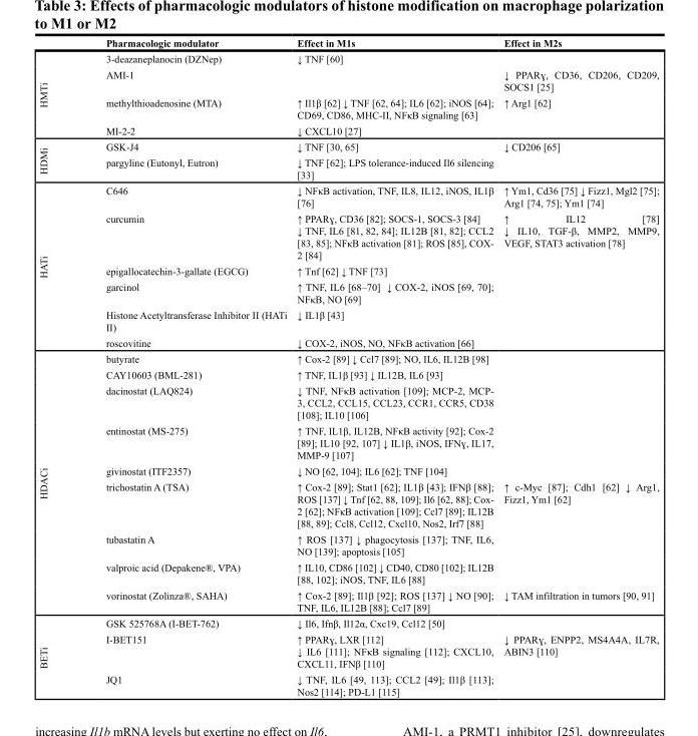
<table><thead><tr><td></td><td>Pharmacologic modulator</td><td>Effect in M1s</td><td>Effect in M2s</td></tr></thead><tbody><tr><td rowspan="4">HMTi</td><td>3-deazaneplanocin (DZNep)</td><td>↓ TNF [60]</td><td></td></tr><tr><td>AMI-1</td><td></td><td>↓ PPARɣ, CD36, CD206, CD209, SOCS1 [25]</td></tr><tr><td>methylthioadenosine (MTA)</td><td>↑ Il1β [62] ↓ TNF [62, 64]; IL6 [62]; iNOS [64]; CD69, CD86, MHC-II, NFκB signaling [63]</td><td>↑ Arg1 [62]</td></tr><tr><td>MI-2-2</td><td>↓ CXCL10 [27]</td><td></td></tr><tr><td rowspan="2">HDMi</td><td>GSK-J4</td><td>↓ TNF [30, 65]</td><td>↓ CD206 [65]</td></tr><tr><td>pargyline (Eutonyl, Eutron)</td><td>↓ TNF [62]; LPS tolerance-induced Il6 silencing [33]</td><td></td></tr><tr><td rowspan="6">HATi</td><td>C646</td><td>↓ NFκB activation, TNF, IL8, IL12, iNOS, IL1β [76]</td><td>↑ Ym1, Cd36 [75] ↓ Fizz1, Mgl2 [75]; Arg1 [74, 75]; Ym1 [74]</td></tr><tr><td>curcumin</td><td>↑ PPARɣ, CD36 [82]; SOCS-1, SOCS-3 [84] ↓ TNF, IL6 [81, 82, 84]; IL12B [81, 82]; CCL2 [83, 85]; NFκB activation [81]; ROS [85], COX- 2 [84]</td><td>↑ IL12 [78] ↓ IL10, TGF-β, MMP2, MMP9, VEGF, STAT3 activation [78]</td></tr><tr><td>epigallocatechin-3-gallate (EGCG)</td><td>↑ Tnf [62] ↓ TNF [73]</td><td></td></tr><tr><td>garcinol</td><td>↑ TNF, IL6 [68–70] ↓ COX-2, iNOS [69, 70]; NFκB, NO [69]</td><td></td></tr><tr><td>Histone Acetyltransferase Inhibitor II (HATi II)</td><td>↓ IL1β [43]</td><td></td></tr><tr><td>roscovitine</td><td>↓ COX-2, iNOS, NO, NFκB activation [66]</td><td></td></tr><tr><td rowspan="9">HDACi</td><td>butyrate</td><td>↑ Cox-2 [89] ↓ Ccl7 [89]; NO, IL6, IL12B [98]</td><td></td></tr><tr><td>CAY10603 (BML-281)</td><td>↑ TNF, IL1β [93] ↓ IL12B, IL6 [93]</td><td></td></tr><tr><td>dacinostat (LAQ824)</td><td>↓ TNF, NFκB activation [109]; MCP-2, MCP- 3, CCL2, CCL15, CCL23, CCR1, CCR5, CD38 [108]; IL10 [106]</td><td></td></tr><tr><td>entinostat (MS-275)</td><td>↑ TNF, IL1β, IL12B, NFκB activity [92]; Cox-2 [89]; IL10 [92, 107] ↓ IL1β, iNOS, IFNɣ, IL17, MMP-9 [107]</td><td></td></tr><tr><td>givinostat (ITF2357)</td><td>↓ NO [62, 104]; IL6 [62]; TNF [104]</td><td></td></tr><tr><td>trichostatin A (TSA)</td><td>↑ Cox-2 [89]; Stat1 [62]; IL1β [43]; IFNβ [88]; ROS [137] ↓ Tnf [62, 88, 109]; Il6 [62, 88]; Cox- 2 [62]; NFκB activation [109]; Ccl7 [89]; IL12B [88, 89]; Ccl8, Ccl12, Cxcl10, Nos2, Irf7 [88]</td><td>↑ c-Myc [87]; Cdh1 [62] ↓ Arg1, Fizz1, Ym1 [62]</td></tr><tr><td>tubastatin A</td><td>↑ ROS [137] ↓ phagocytosis [137]; TNF, IL6, NO [139]; apoptosis [105]</td><td></td></tr><tr><td>valproic acid (Depakene®, VPA)</td><td>↑ IL10, CD86 [102] ↓ CD40, CD80 [102]; IL12B [88, 102]; iNOS, TNF, IL6 [88]</td><td></td></tr><tr><td>vorinostat (Zolinza®, SAHA)</td><td>↑ Cox-2 [89]; Il1β [92]; ROS [137] ↓ NO [90]; TNF, IL6, IL12B [88]; Ccl7 [89]</td><td>↓ TAM infiltration in tumors [90, 91]</td></tr><tr><td rowspan="3">BETi</td><td>GSK 525768A (I-BET-762)</td><td>↓ Il6, Ifnβ, Il12α, Cxc19, Ccl12 [50]</td><td></td></tr><tr><td>I-BET151</td><td>↑ PPARɣ, LXR [112] ↓ IL6 [111]; NFκB signaling [112]; CXCL10, CXCL11, IFNβ [110]</td><td>↓ PPARɣ, ENPP2, MS4A4A, IL7R, ABIN3 [110]</td></tr><tr><td>JQ1</td><td>↓ TNF, IL6 [49, 113]; CCL2 [49]; Il1β [113]; Nos2 [114]; PD-L1 [115]</td><td></td></tr></tbody></table>